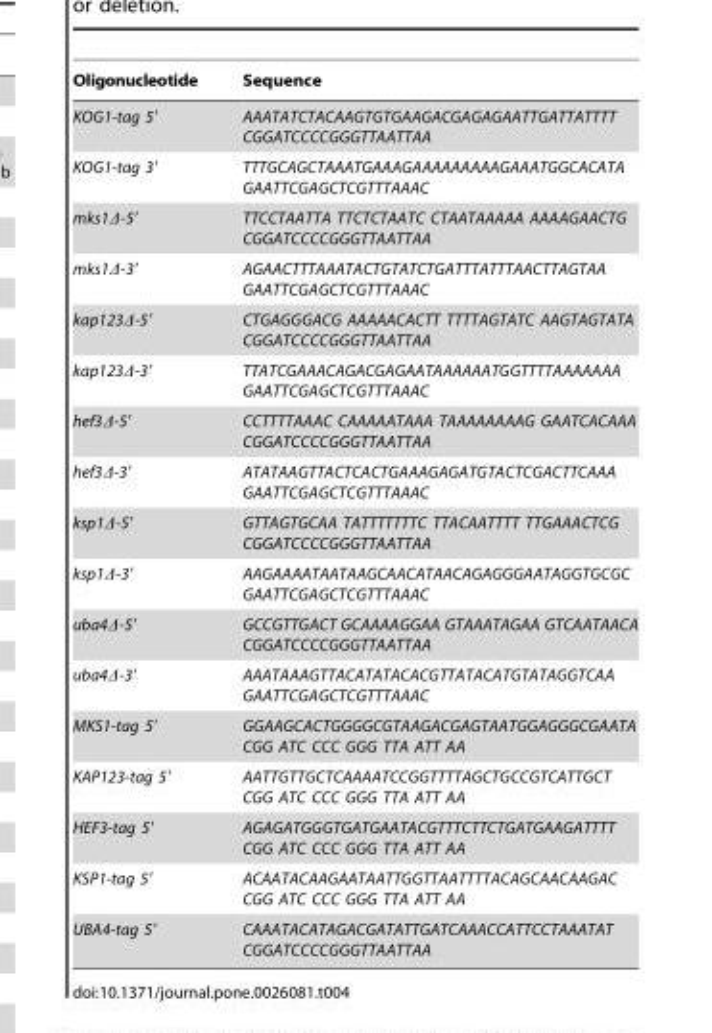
<table><thead><tr><td>Oligonucleotide</td><td>Sequence</td></tr></thead><tbody><tr><td>KOG1-tag 5′</td><td>AAATATCTACAAGTGTGAAGACGAGAGAATTGATTATTTT CGGATCCCCGGGTTAATTAA</td></tr><tr><td>KOG1-tag 3′</td><td>TTTGCAGCTAAATGAAAGAAAAAAAAAGAAATGGCACATA GAATTCGAGCTCGTTTAAAC</td></tr><tr><td>mks1Δ-5′</td><td>TTCCTAATTA TTCTCTAATC CTAATAAAAA AAAAGAACTG CGGATCCCCGGGTTAATTAA</td></tr><tr><td>mks1Δ-3′</td><td>AGAACTTTAAATACTGTATCTGATTTATTTAACTTAGTAA GAATTCGAGCTCGTTTAAAC</td></tr><tr><td>kap123Δ-5′</td><td>CTGAGGGACG AAAAACACTT TTTTAGTATC AAGTAGTATA CGGATCCCCGGGTTAATTAA</td></tr><tr><td>kap123Δ-3′</td><td>TTATCGAAACAGACGAGAATAAAAAATGGTTTTAAAAAAA GAATTCGAGCTCGTTTAAAC</td></tr><tr><td>hef3Δ-5′</td><td>CCTTTTAAAC CAAAAATAAA TAAAAAAAAG GAATCACAAA CGGATCCCCGGGTTAATTAA</td></tr><tr><td>hef3Δ-3′</td><td>ATATAAGTTACTCACTGAAAGAGATGTACTCGACTTCAAA GAATTCGAGCTCGTTTAAAC</td></tr><tr><td>ksp1Δ-5′</td><td>GTTAGTGCAA TATTTTTTTC TTACAATTTT TTGAAACTCG CGGATCCCCGGGTTAATTAA</td></tr><tr><td>ksp1Δ-3′</td><td>AAGAAAATAATAAGCAACATAACAGAGGGAATAGGTGCGC GAATTCGAGCTCGTTTAAAC</td></tr><tr><td>uba4Δ-5′</td><td>GCCGTTGACT GCAAAAGGAA GTAAATAGAA GTCAATAACA CGGATCCCCGGGTTAATTAA</td></tr><tr><td>uba4Δ-3′</td><td>AAATAAAGTTACATATACACGTTATACATGTATAGGTCAA GAATTCGAGCTCGTTTAAAC</td></tr><tr><td>MKS1-tag 5′</td><td>GGAAGCACTGGGGCGTAAGACGAGTAATGGAGGGCGAATA CGG ATC CCC GGG TTA ATT AA</td></tr><tr><td>KAP123-tag 5′</td><td>AATTGTTGCTCAAAATCCGGTTTTAGCTGCCGTCATTGCT CGG ATC CCC GGG TTA ATT AA</td></tr><tr><td>HEF3-tag 5′</td><td>AGAGATGGGTGATGAATACGTTTCTTCTGATGAAGATTTT CGG ATC CCC GGG TTA ATT AA</td></tr><tr><td>KSP1-tag 5′</td><td>ACAATACAAGAATAATTGGTTAATTTTACAGCAACAAGAC CGG ATC CCC GGG TTA ATT AA</td></tr><tr><td>UBA4-tag 5′</td><td>CAAATACATAGACGATATTGATCAAACCATTCCTAAATAT CGGATCCCCGGGTTAATTAA</td></tr></tbody></table>